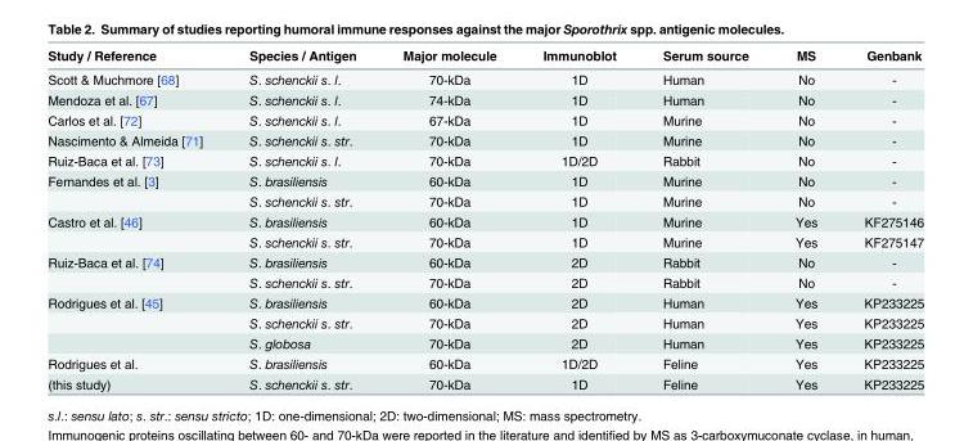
<table><thead><tr><td>Study / Reference</td><td>Species / Antigen</td><td>Major molecule</td><td>Immunoblot</td><td>Serum source</td><td>MS</td><td>Genbank</td></tr></thead><tbody><tr><td>Scott &amp; Muchmore [68]</td><td>S. schenckii s. l.</td><td>70-kDa</td><td>1D</td><td>Human</td><td>No</td><td>-</td></tr><tr><td>Mendoza et al. [67]</td><td>S. schenckii s. l.</td><td>74-kDa</td><td>1D</td><td>Human</td><td>No</td><td>-</td></tr><tr><td>Carlos et al. [72]</td><td>S. schenckii s. l.</td><td>67-kDa</td><td>1D</td><td>Murine</td><td>No</td><td>-</td></tr><tr><td>Nascimento &amp; Almeida [71]</td><td>S. schenckii s. str.</td><td>70-kDa</td><td>1D</td><td>Murine</td><td>No</td><td>-</td></tr><tr><td>Ruiz-Baca et al. [73]</td><td>S. schenckii s. l.</td><td>70-kDa</td><td>1D/2D</td><td>Rabbit</td><td>No</td><td>-</td></tr><tr><td rowspan="2">Fernandes et al. [3]</td><td>S. brasiliensis</td><td>60-kDa</td><td>1D</td><td>Murine</td><td>No</td><td>-</td></tr><tr><td>S. schenckii s. str.</td><td>70-kDa</td><td>1D</td><td>Murine</td><td>No</td><td>-</td></tr><tr><td rowspan="2">Castro et al. [46]</td><td>S. brasiliensis</td><td>60-kDa</td><td>1D</td><td>Murine</td><td>Yes</td><td>KF275146</td></tr><tr><td>S. schenckii s. str.</td><td>70-kDa</td><td>1D</td><td>Murine</td><td>Yes</td><td>KF275147</td></tr><tr><td rowspan="2">Ruiz-Baca et al. [74]</td><td>S. brasiliensis</td><td>60-kDa</td><td>2D</td><td>Rabbit</td><td>No</td><td>-</td></tr><tr><td>S. schenckii s. str.</td><td>70-kDa</td><td>2D</td><td>Rabbit</td><td>No</td><td>-</td></tr><tr><td rowspan="3">Rodrigues et al. [45]</td><td>S. brasiliensis</td><td>60-kDa</td><td>2D</td><td>Human</td><td>Yes</td><td>KP233225</td></tr><tr><td>S. schenckii s. str.</td><td>70-kDa</td><td>2D</td><td>Human</td><td>Yes</td><td>KP233225</td></tr><tr><td>S. globosa</td><td>70-kDa</td><td>2D</td><td>Human</td><td>Yes</td><td>KP233225</td></tr><tr><td>Rodrigues et al.</td><td>S. brasiliensis</td><td>60-kDa</td><td>1D/2D</td><td>Feline</td><td>Yes</td><td>KP233225</td></tr><tr><td>(this study)</td><td>S. schenckii s. str.</td><td>70-kDa</td><td>1D</td><td>Feline</td><td>Yes</td><td>KP233225</td></tr></tbody></table>